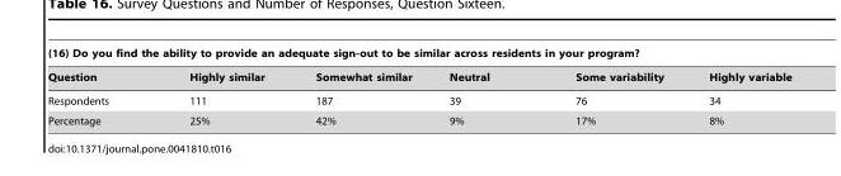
<table><thead><tr><td colspan="6">(16) Do you find the ability to provide an adequate sign-out to be similar across residents in your program?</td></tr><tr><td>Question</td><td>Highly similar</td><td>Somewhat similar</td><td>Neutral</td><td>Some variability</td><td>Highly variable</td></tr></thead><tbody><tr><td>Respondents</td><td>111</td><td>187</td><td>39</td><td>76</td><td>34</td></tr><tr><td>Percentage</td><td>25%</td><td>42%</td><td>9%</td><td>17%</td><td>8%</td></tr></tbody></table>